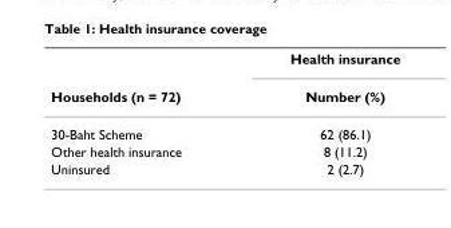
<table><thead><tr><td rowspan="2">Households (n = 72)</td><td rowspan="2">Health insurance Number (%)</td></tr><tr></tr></thead><tbody><tr><td>30-Baht Scheme</td><td>62 (86.1)</td></tr><tr><td>Other health insurance</td><td>8 (11.2)</td></tr><tr><td>Uninsured</td><td>2 (2.7)</td></tr></tbody></table>